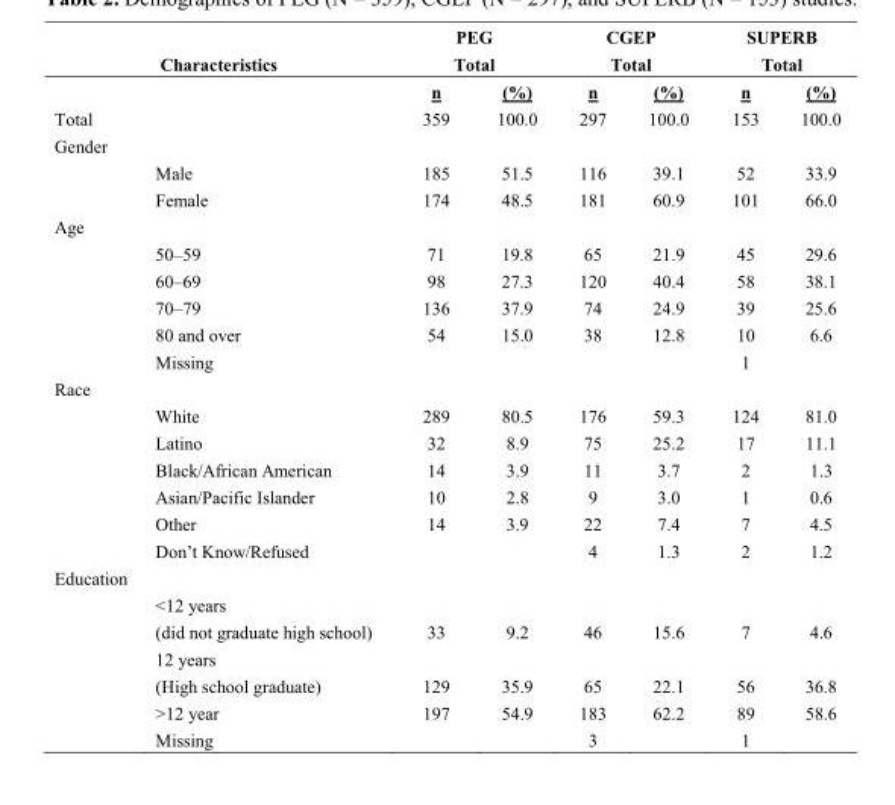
<table><thead><tr><td rowspan="2"></td><td rowspan="2">Characteristics</td><td colspan="2">Total</td><td colspan="2">Total</td><td colspan="2">Total</td></tr><tr><td>n</td><td>(%)</td><td>n</td><td>(%)</td><td>n</td><td>(%)</td></tr></thead><tbody><tr><td>Total</td><td></td><td>359</td><td>100.0</td><td>297</td><td>100.0</td><td>153</td><td>100.0</td></tr><tr><td colspan="8">Gender</td></tr><tr><td></td><td>Male</td><td>185</td><td>51.5</td><td>116</td><td>39.1</td><td>52</td><td>33.9</td></tr><tr><td></td><td>Female</td><td>174</td><td>48.5</td><td>181</td><td>60.9</td><td>101</td><td>66.0</td></tr><tr><td colspan="8">Age</td></tr><tr><td></td><td>50–59</td><td>71</td><td>19.8</td><td>65</td><td>21.9</td><td>45</td><td>29.6</td></tr><tr><td></td><td>60–69</td><td>98</td><td>27.3</td><td>120</td><td>40.4</td><td>58</td><td>38.1</td></tr><tr><td></td><td>70–79</td><td>136</td><td>37.9</td><td>74</td><td>24.9</td><td>39</td><td>25.6</td></tr><tr><td></td><td>80 and over</td><td>54</td><td>15.0</td><td>38</td><td>12.8</td><td>10</td><td>6.6</td></tr><tr><td></td><td>Missing</td><td></td><td></td><td></td><td></td><td>1</td><td></td></tr><tr><td colspan="8">Race</td></tr><tr><td></td><td>White</td><td>289</td><td>80.5</td><td>176</td><td>59.3</td><td>124</td><td>81.0</td></tr><tr><td></td><td>Latino</td><td>32</td><td>8.9</td><td>75</td><td>25.2</td><td>17</td><td>11.1</td></tr><tr><td></td><td>Black/African American</td><td>14</td><td>3.9</td><td>11</td><td>3.7</td><td>2</td><td>1.3</td></tr><tr><td></td><td>Asian/Pacific Islander</td><td>10</td><td>2.8</td><td>9</td><td>3.0</td><td>1</td><td>0.6</td></tr><tr><td></td><td>Other</td><td>14</td><td>3.9</td><td>22</td><td>7.4</td><td>7</td><td>4.5</td></tr><tr><td></td><td>Don’t Know/Refused</td><td></td><td></td><td>4</td><td>1.3</td><td>2</td><td>1.2</td></tr><tr><td colspan="8">Education</td></tr><tr><td></td><td>&lt;12 years (did not graduate high school)</td><td>33</td><td>9.2</td><td>46</td><td>15.6</td><td>7</td><td>4.6</td></tr><tr><td></td><td>12 years (High school graduate)</td><td>129</td><td>35.9</td><td>65</td><td>22.1</td><td>56</td><td>36.8</td></tr><tr><td></td><td>&gt;12 year</td><td>197</td><td>54.9</td><td>183</td><td>62.2</td><td>89</td><td>58.6</td></tr><tr><td></td><td>Missing</td><td></td><td></td><td>3</td><td></td><td>1</td><td></td></tr></tbody></table>